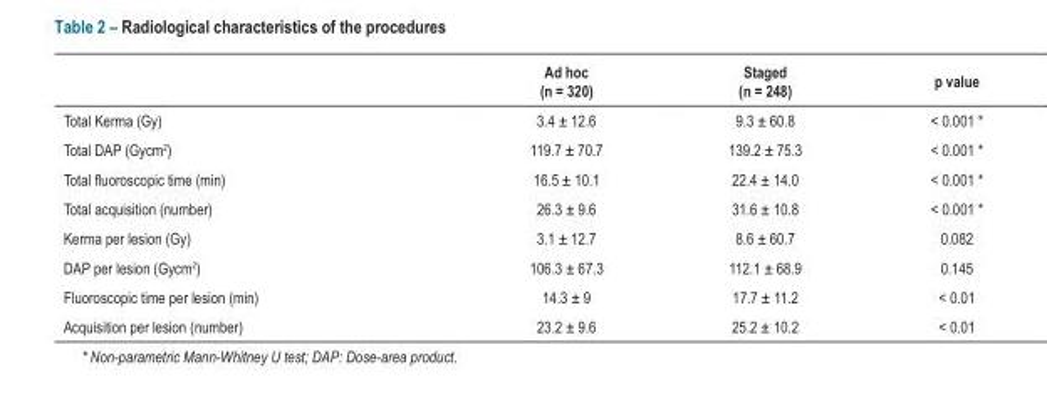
<table><thead><tr><td></td><td>Ad hoc (n = 320)</td><td>Staged (n = 248)</td><td>p value</td></tr></thead><tbody><tr><td>Total Kerma (Gy)</td><td>3.4 ± 12.6</td><td>9.3 ± 60.8</td><td>&lt; 0.001 *</td></tr><tr><td>Total DAP (Gycm<sup>2</sup>)</td><td>119.7 ± 70.7</td><td>139.2 ± 75.3</td><td>&lt; 0.001 *</td></tr><tr><td>Total fluoroscopic time (min)</td><td>16.5 ± 10.1</td><td>22.4 ± 14.0</td><td>&lt; 0.001 *</td></tr><tr><td>Total acquisition (number)</td><td>26.3 ± 9.6</td><td>31.6 ± 10.8</td><td>&lt; 0.001 *</td></tr><tr><td>Kerma per lesion (Gy)</td><td>3.1 ± 12.7</td><td>8.6 ± 60.7</td><td>0.082</td></tr><tr><td>DAP per lesion (Gycm<sup>2</sup>)</td><td>106.3 ± 67.3</td><td>112.1 ± 68.9</td><td>0.145</td></tr><tr><td>Fluoroscopic time per lesion (min)</td><td>14.3 ± 9</td><td>17.7 ± 11.2</td><td>&lt; 0.01</td></tr><tr><td>Acquisition per lesion (number)</td><td>23.2 ± 9.6</td><td>25.2 ± 10.2</td><td>&lt; 0.01</td></tr></tbody></table>